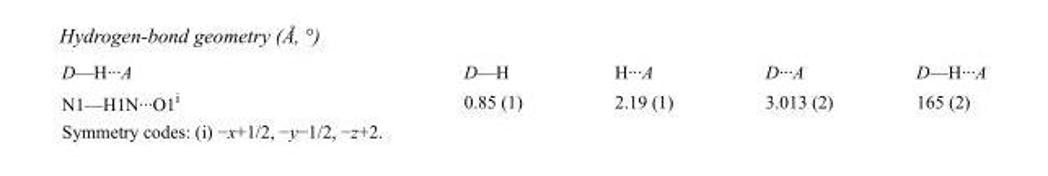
<table><tbody><tr><td>D—H···A</td><td>D—H</td><td>H···A</td><td>D···A</td><td>D—H···A</td></tr><tr><td>N1—H1N···O1<sup>i</sup></td><td>0.85 (1)</td><td>2.19 (1)</td><td>3.013 (2)</td><td>165 (2)</td></tr></tbody></table>